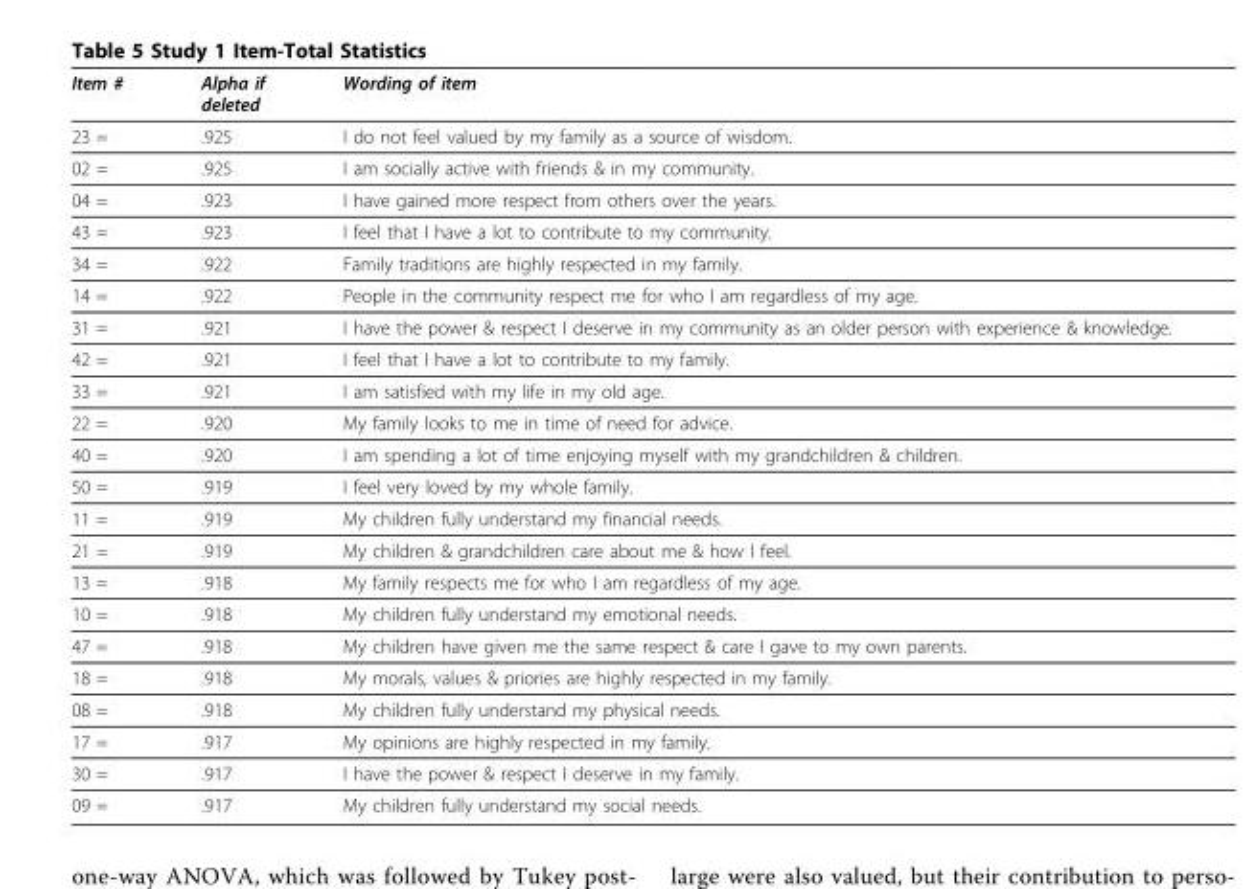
<table><thead><tr><td>Item #</td><td>Alpha if deleted</td><td>Wording of item</td></tr></thead><tbody><tr><td>23 =</td><td>.925</td><td>I do not feel valued by my family as a source of wisdom.</td></tr><tr><td>02 =</td><td>.925</td><td>I am socially active with friends &amp; in my community.</td></tr><tr><td>04 =</td><td>.923</td><td>I have gained more respect from others over the years.</td></tr><tr><td>43 =</td><td>.923</td><td>I feel that I have a lot to contribute to my community.</td></tr><tr><td>34 =</td><td>.922</td><td>Family traditions are highly respected in my family.</td></tr><tr><td>14 =</td><td>.922</td><td>People in the community respect me for who I am regardless of my age.</td></tr><tr><td>31 =</td><td>.921</td><td>I have the power &amp; respect I deserve in my community as an older person with experience &amp; knowledge.</td></tr><tr><td>42 =</td><td>.921</td><td>I feel that I have a lot to contribute to my family.</td></tr><tr><td>33 =</td><td>.921</td><td>I am satisfied with my life in my old age.</td></tr><tr><td>22 =</td><td>.920</td><td>My family looks to me in time of need for advice.</td></tr><tr><td>40 =</td><td>.920</td><td>I am spending a lot of time enjoying myself with my grandchildren &amp; children.</td></tr><tr><td>50 =</td><td>.919</td><td>I feel very loved by my whole family.</td></tr><tr><td>11 =</td><td>.919</td><td>My children fully understand my financial needs.</td></tr><tr><td>21 =</td><td>.919</td><td>My children &amp; grandchildren care about me &amp; how I feel.</td></tr><tr><td>13 =</td><td>.918</td><td>My family respects me for who I am regardless of my age.</td></tr><tr><td>10 =</td><td>.918</td><td>My children fully understand my emotional needs.</td></tr><tr><td>47 =</td><td>.918</td><td>My children have given me the same respect &amp; care I gave to my own parents.</td></tr><tr><td>18 =</td><td>.918</td><td>My morals, values &amp; priories are highly respected in my family.</td></tr><tr><td>08 =</td><td>.918</td><td>My children fully understand my physical needs.</td></tr><tr><td>17 =</td><td>.917</td><td>My opinions are highly respected in my family.</td></tr><tr><td>30 =</td><td>.917</td><td>I have the power &amp; respect I deserve in my family.</td></tr><tr><td>09 =</td><td>.917</td><td>My children fully understand my social needs.</td></tr></tbody></table>